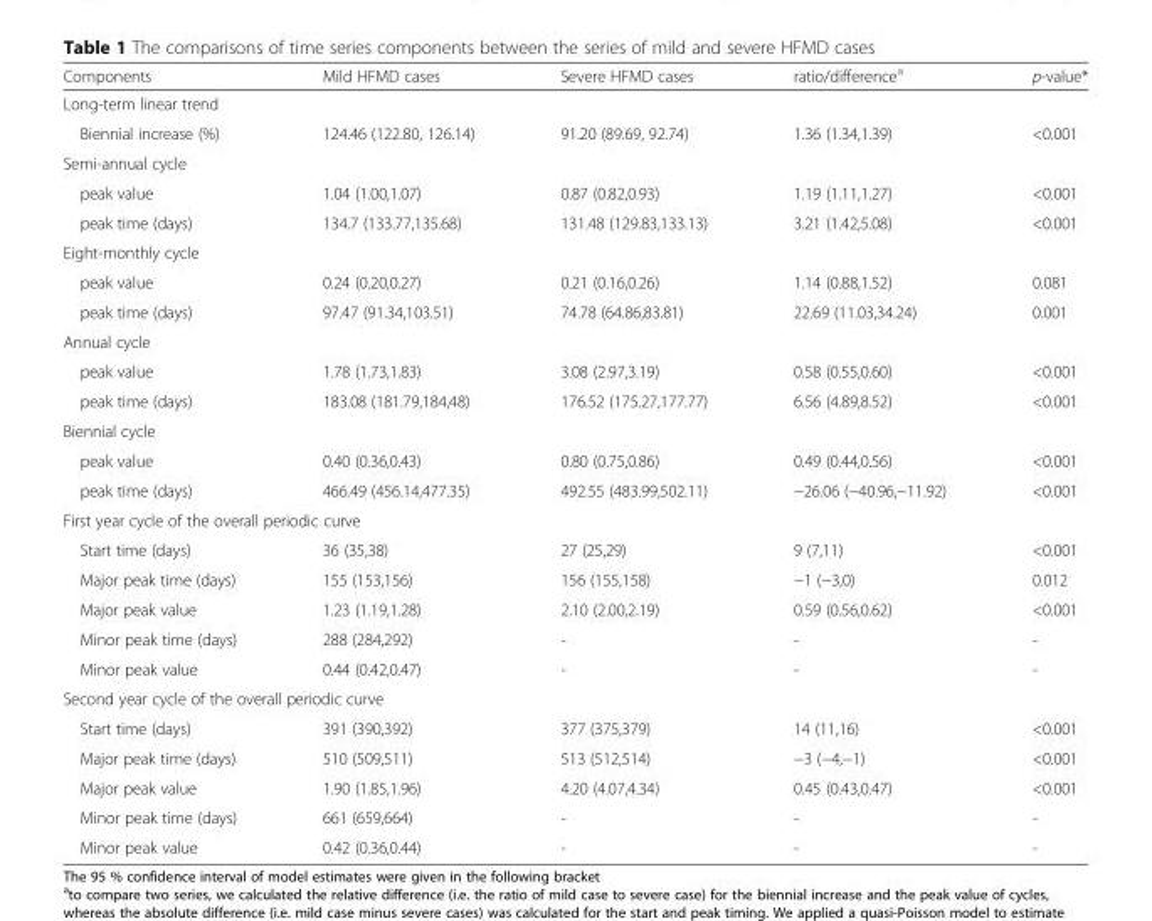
<table><thead><tr><td>Components</td><td>Mild HFMD cases</td><td>Severe HFMD cases</td><td>ratio/difference<sup>a</sup></td><td>p-value*</td></tr></thead><tbody><tr><td colspan="5">Long-term linear trend</td></tr><tr><td>Biennial increase (%)</td><td>124.46 (122.80, 126.14)</td><td>91.20 (89.69, 92.74)</td><td>1.36 (1.34,1.39)</td><td>&lt;0.001</td></tr><tr><td colspan="5">Semi-annual cycle</td></tr><tr><td>peak value</td><td>1.04 (1.00,1.07)</td><td>0.87 (0.82,0.93)</td><td>1.19 (1.11,1.27)</td><td>&lt;0.001</td></tr><tr><td>peak time (days)</td><td>134.7 (133.77,135.68)</td><td>131.48 (129.83,133.13)</td><td>3.21 (1.42,5.08)</td><td>&lt;0.001</td></tr><tr><td colspan="5">Eight-monthly cycle</td></tr><tr><td>peak value</td><td>0.24 (0.20,0.27)</td><td>0.21 (0.16,0.26)</td><td>1.14 (0.88,1.52)</td><td>0.081</td></tr><tr><td>peak time (days)</td><td>97.47 (91.34,103.51)</td><td>74.78 (64.86,83.81)</td><td>22.69 (11.03,34.24)</td><td>0.001</td></tr><tr><td colspan="5">Annual cycle</td></tr><tr><td>peak value</td><td>1.78 (1.73,1.83)</td><td>3.08 (2.97,3.19)</td><td>0.58 (0.55,0.60)</td><td>&lt;0.001</td></tr><tr><td>peak time (days)</td><td>183.08 (181.79,184,48)</td><td>176.52 (175.27,177.77)</td><td>6.56 (4.89,8.52)</td><td>&lt;0.001</td></tr><tr><td colspan="5">Biennial cycle</td></tr><tr><td>peak value</td><td>0.40 (0.36,0.43)</td><td>0.80 (0.75,0.86)</td><td>0.49 (0.44,0.56)</td><td>&lt;0.001</td></tr><tr><td>peak time (days)</td><td>466.49 (456.14,477.35)</td><td>492.55 (483.99,502.11)</td><td>−26.06 (−40.96,−11.92)</td><td>&lt;0.001</td></tr><tr><td colspan="5">First year cycle of the overall periodic curve</td></tr><tr><td>Start time (days)</td><td>36 (35,38)</td><td>27 (25,29)</td><td>9 (7,11)</td><td>&lt;0.001</td></tr><tr><td>Major peak time (days)</td><td>155 (153,156)</td><td>156 (155,158)</td><td>−1 (−3,0)</td><td>0.012</td></tr><tr><td>Major peak value</td><td>1.23 (1.19,1.28)</td><td>2.10 (2.00,2.19)</td><td>0.59 (0.56,0.62)</td><td>&lt;0.001</td></tr><tr><td>Minor peak time (days)</td><td>288 (284,292)</td><td>-</td><td>-</td><td>-</td></tr><tr><td>Minor peak value</td><td>0.44 (0.42,0.47)</td><td>-</td><td>-</td><td>-</td></tr><tr><td colspan="5">Second year cycle of the overall periodic curve</td></tr><tr><td>Start time (days)</td><td>391 (390,392)</td><td>377 (375,379)</td><td>14 (11,16)</td><td>&lt;0.001</td></tr><tr><td>Major peak time (days)</td><td>510 (509,511)</td><td>513 (512,514)</td><td>−3 (−4,−1)</td><td>&lt;0.001</td></tr><tr><td>Major peak value</td><td>1.90 (1.85,1.96)</td><td>4.20 (4.07,4.34)</td><td>0.45 (0.43,0.47)</td><td>&lt;0.001</td></tr><tr><td>Minor peak time (days)</td><td>661 (659,664)</td><td>-</td><td>-</td><td>-</td></tr><tr><td>Minor peak value</td><td>0.42 (0.36,0.44)</td><td>-</td><td>-</td><td>-</td></tr></tbody></table>